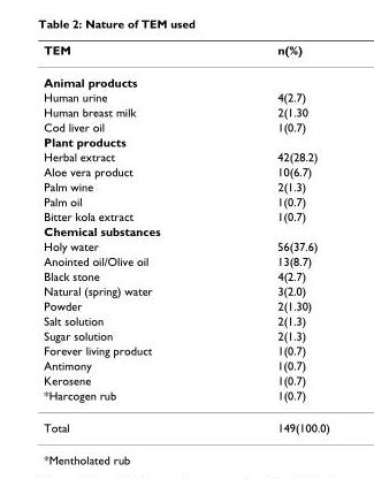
<table><thead><tr><td>TEM</td><td>n(%)</td></tr></thead><tbody><tr><td colspan="2">Animal products</td></tr><tr><td>Human urine</td><td>4(2.7)</td></tr><tr><td>Human breast milk</td><td>2(1.30</td></tr><tr><td>Cod liver oil</td><td>1(0.7)</td></tr><tr><td colspan="2">Plant products</td></tr><tr><td>Herbal extract</td><td>42(28.2)</td></tr><tr><td>Aloe vera product</td><td>10(6.7)</td></tr><tr><td>Palm wine</td><td>2(1.3)</td></tr><tr><td>Palm oil</td><td>1(0.7)</td></tr><tr><td>Bitter kola extract</td><td>1(0.7)</td></tr><tr><td colspan="2">Chemical substances</td></tr><tr><td>Holy water</td><td>56(37.6)</td></tr><tr><td>Anointed oil/Olive oil</td><td>13(8.7)</td></tr><tr><td>Black stone</td><td>4(2.7)</td></tr><tr><td>Natural (spring) water</td><td>3(2.0)</td></tr><tr><td>Powder</td><td>2(1.30)</td></tr><tr><td>Salt solution</td><td>2(1.3)</td></tr><tr><td>Sugar solution</td><td>2(1.3)</td></tr><tr><td>Forever living product</td><td>1(0.7)</td></tr><tr><td>Antimony</td><td>1(0.7)</td></tr><tr><td>Kerosene</td><td>1(0.7)</td></tr><tr><td>*Harcogen rub</td><td>1(0.7)</td></tr><tr><td>Total</td><td>149(100.0)</td></tr></tbody></table>